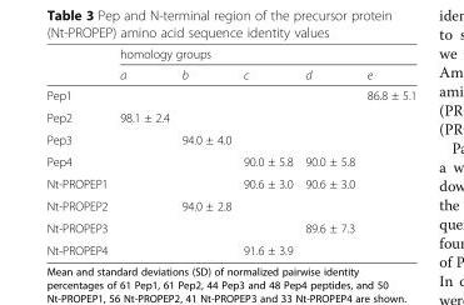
<table><thead><tr><td rowspan="2"></td><td colspan="5">homology groups</td></tr><tr><td>a</td><td>b</td><td>c</td><td>d</td><td>e</td></tr></thead><tbody><tr><td>Pep1</td><td></td><td></td><td></td><td></td><td>86.8 ± 5.1</td></tr><tr><td>Pep2</td><td>98.1 ± 2.4</td><td></td><td></td><td></td><td></td></tr><tr><td>Pep3</td><td></td><td>94.0 ± 4.0</td><td></td><td></td><td></td></tr><tr><td>Pep4</td><td></td><td></td><td>90.0 ± 5.8</td><td>90.0 ± 5.8</td><td></td></tr><tr><td>Nt-PROPEP1</td><td></td><td></td><td>90.6 ± 3.0</td><td>90.6 ± 3.0</td><td></td></tr><tr><td>Nt-PROPEP2</td><td></td><td>94.0 ± 2.8</td><td></td><td></td><td></td></tr><tr><td>Nt-PROPEP3</td><td></td><td></td><td></td><td>89.6 ± 7.3</td><td></td></tr><tr><td>Nt-PROPEP4</td><td></td><td></td><td>91.6 ± 3.9</td><td></td><td></td></tr></tbody></table>